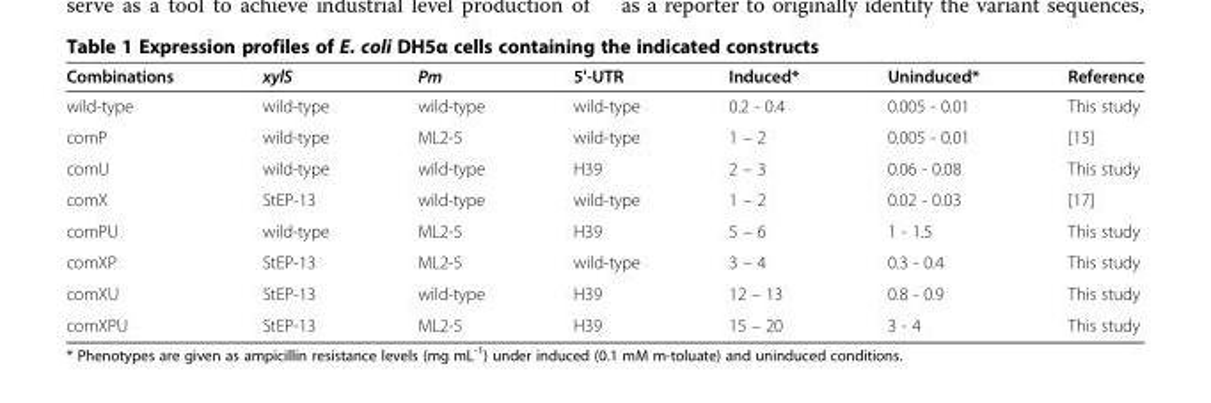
<table><thead><tr><td>Combinations</td><td>xylS</td><td>Pm</td><td>5&#x27;-UTR</td><td>Induced*</td><td>Uninduced*</td><td>Reference</td></tr></thead><tbody><tr><td>wild-type</td><td>wild-type</td><td>wild-type</td><td>wild-type</td><td>0.2 - 0.4</td><td>0.005 - 0.01</td><td>This study</td></tr><tr><td>comP</td><td>wild-type</td><td>ML2-5</td><td>wild-type</td><td>1 – 2</td><td>0.005 - 0.01</td><td>[15]</td></tr><tr><td>comU</td><td>wild-type</td><td>wild-type</td><td>H39</td><td>2 – 3</td><td>0.06 - 0.08</td><td>This study</td></tr><tr><td>comX</td><td>StEP-13</td><td>wild-type</td><td>wild-type</td><td>1 – 2</td><td>0.02 - 0.03</td><td>[17]</td></tr><tr><td>comPU</td><td>wild-type</td><td>ML2-5</td><td>H39</td><td>5 – 6</td><td>1 - 1.5</td><td>This study</td></tr><tr><td>comXP</td><td>StEP-13</td><td>ML2-5</td><td>wild-type</td><td>3 – 4</td><td>0.3 - 0.4</td><td>This study</td></tr><tr><td>comXU</td><td>StEP-13</td><td>wild-type</td><td>H39</td><td>12 – 13</td><td>0.8 - 0.9</td><td>This study</td></tr><tr><td>comXPU</td><td>StEP-13</td><td>ML2-5</td><td>H39</td><td>15 – 20</td><td>3 - 4</td><td>This study</td></tr></tbody></table>